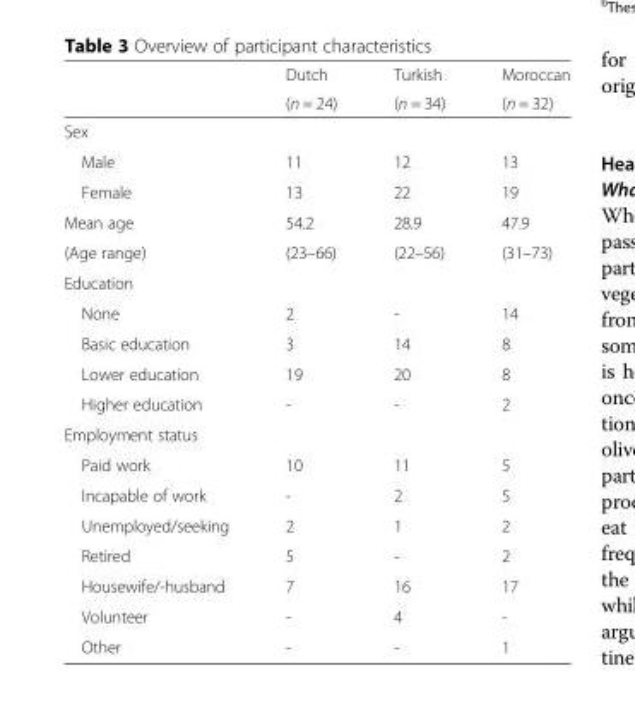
<table><thead><tr><td rowspan="2"></td><td rowspan="2">Dutch (n = 24)</td><td rowspan="2">Turkish (n = 34)</td><td rowspan="2">Moroccan (n = 32)</td></tr><tr></tr></thead><tbody><tr><td colspan="4">Sex</td></tr><tr><td>Male</td><td>11</td><td>12</td><td>13</td></tr><tr><td>Female</td><td>13</td><td>22</td><td>19</td></tr><tr><td>Mean age</td><td>54.2</td><td>28.9</td><td>47.9</td></tr><tr><td>(Age range)</td><td>(23–66)</td><td>(22–56)</td><td>(31–73)</td></tr><tr><td colspan="4">Education</td></tr><tr><td>None</td><td>2</td><td>-</td><td>14</td></tr><tr><td>Basic education</td><td>3</td><td>14</td><td>8</td></tr><tr><td>Lower education</td><td>19</td><td>20</td><td>8</td></tr><tr><td>Higher education</td><td>-</td><td>-</td><td>2</td></tr><tr><td colspan="4">Employment status</td></tr><tr><td>Paid work</td><td>10</td><td>11</td><td>5</td></tr><tr><td>Incapable of work</td><td>-</td><td>2</td><td>5</td></tr><tr><td>Unemployed/seeking</td><td>2</td><td>1</td><td>2</td></tr><tr><td>Retired</td><td>5</td><td>-</td><td>2</td></tr><tr><td>Housewife/-husband</td><td>7</td><td>16</td><td>17</td></tr><tr><td>Volunteer</td><td>-</td><td>4</td><td>-</td></tr><tr><td>Other</td><td>-</td><td>-</td><td>1</td></tr></tbody></table>